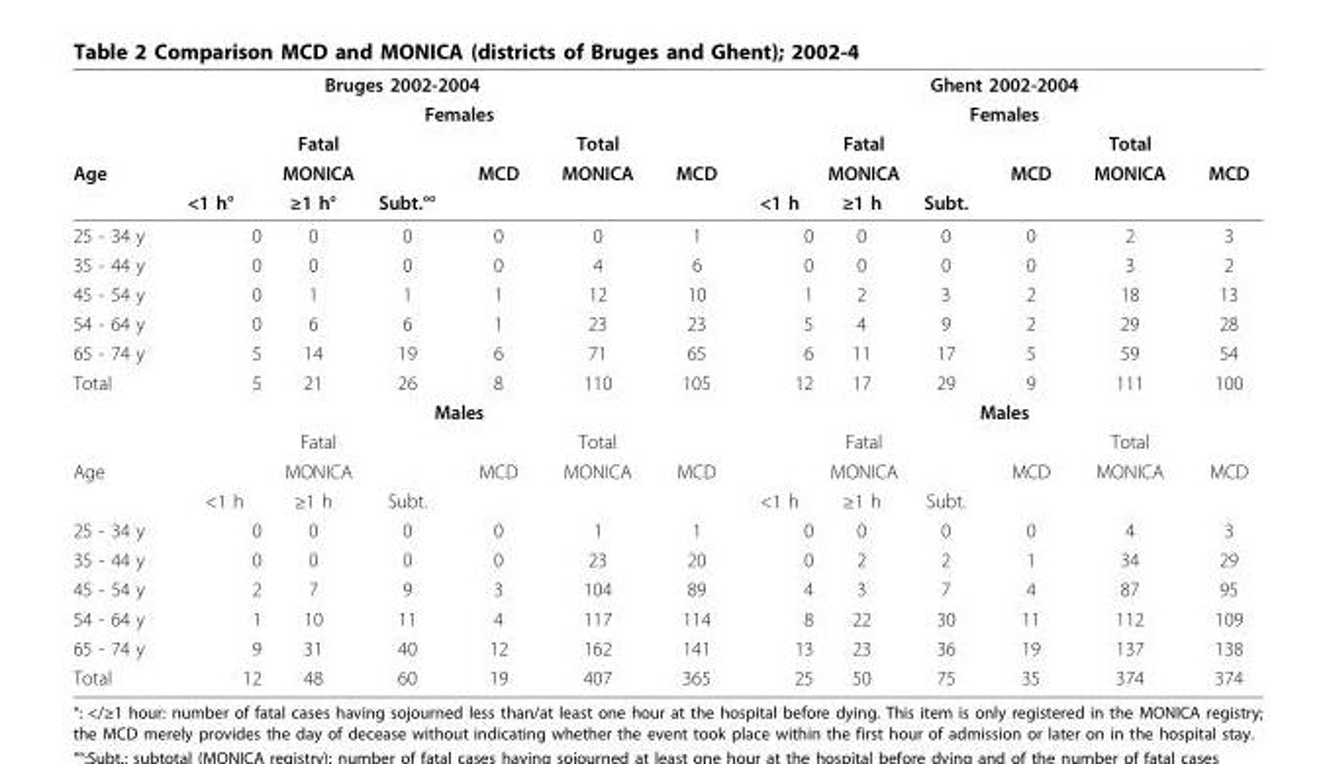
<table><thead><tr><td colspan="7">Bruges 2002-2004</td><td rowspan="2" colspan="6">Ghent 2002-2004 Females</td></tr><tr><td rowspan="4">Age</td><td colspan="6">Females</td></tr><tr><td rowspan="2" colspan="3">Fatal MONICA</td><td colspan="3">Total</td><td rowspan="2" colspan="3">Fatal MONICA</td><td colspan="3">Total</td></tr><tr><td rowspan="2">MCD</td><td rowspan="2">MONICA</td><td rowspan="2">MCD</td><td rowspan="2">MCD</td><td rowspan="2">MONICA</td><td rowspan="2">MCD</td></tr><tr><td>&lt;1 h°</td><td>≥1 h°</td><td>Subt.°°</td><td>&lt;1 h</td><td>≥1 h</td><td>Subt.</td></tr></thead><tbody><tr><td>25 - 34 y</td><td>0</td><td>0</td><td>0</td><td>0</td><td>0</td><td>1</td><td>0</td><td>0</td><td>0</td><td>0</td><td>2</td><td>3</td></tr><tr><td>35 - 44 y</td><td>0</td><td>0</td><td>0</td><td>0</td><td>4</td><td>6</td><td>0</td><td>0</td><td>0</td><td>0</td><td>3</td><td>2</td></tr><tr><td>45 - 54 y</td><td>0</td><td>1</td><td>1</td><td>1</td><td>12</td><td>10</td><td>1</td><td>2</td><td>3</td><td>2</td><td>18</td><td>13</td></tr><tr><td>54 - 64 y</td><td>0</td><td>6</td><td>6</td><td>1</td><td>23</td><td>23</td><td>5</td><td>4</td><td>9</td><td>2</td><td>29</td><td>28</td></tr><tr><td>65 - 74 y</td><td>5</td><td>14</td><td>19</td><td>6</td><td>71</td><td>65</td><td>6</td><td>11</td><td>17</td><td>5</td><td>59</td><td>54</td></tr><tr><td rowspan="3">Total</td><td>5</td><td>21</td><td>26</td><td>8</td><td>110</td><td>105</td><td>12</td><td>17</td><td>29</td><td>9</td><td>111</td><td>100</td></tr><tr><td colspan="6">Males</td><td colspan="6">Males</td></tr><tr><td colspan="3">Fatal</td><td colspan="3">Total</td><td colspan="3">Fatal</td><td colspan="3">Total</td></tr><tr><td rowspan="2">Age</td><td colspan="3">MONICA</td><td>MCD</td><td>MONICA</td><td>MCD</td><td colspan="3">MONICA</td><td>MCD</td><td>MONICA</td><td>MCD</td></tr><tr><td>&lt;1 h</td><td>≥1 h</td><td>Subt.</td><td></td><td></td><td></td><td>&lt;1 h</td><td>≥1 h</td><td>Subt.</td><td></td><td></td><td></td></tr><tr><td>25 - 34 y</td><td>0</td><td>0</td><td>0</td><td>0</td><td>1</td><td>1</td><td>0</td><td>0</td><td>0</td><td>0</td><td>4</td><td>3</td></tr><tr><td>35 - 44 y</td><td>0</td><td>0</td><td>0</td><td>0</td><td>23</td><td>20</td><td>0</td><td>2</td><td>2</td><td>1</td><td>34</td><td>29</td></tr><tr><td>45 - 54 y</td><td>2</td><td>7</td><td>9</td><td>3</td><td>104</td><td>89</td><td>4</td><td>3</td><td>7</td><td>4</td><td>87</td><td>95</td></tr><tr><td>54 - 64 y</td><td>1</td><td>10</td><td>11</td><td>4</td><td>117</td><td>114</td><td>8</td><td>22</td><td>30</td><td>11</td><td>112</td><td>109</td></tr><tr><td>65 - 74 y</td><td>9</td><td>31</td><td>40</td><td>12</td><td>162</td><td>141</td><td>13</td><td>23</td><td>36</td><td>19</td><td>137</td><td>138</td></tr><tr><td>Total</td><td>12</td><td>48</td><td>60</td><td>19</td><td>407</td><td>365</td><td>25</td><td>50</td><td>75</td><td>35</td><td>374</td><td>374</td></tr></tbody></table>